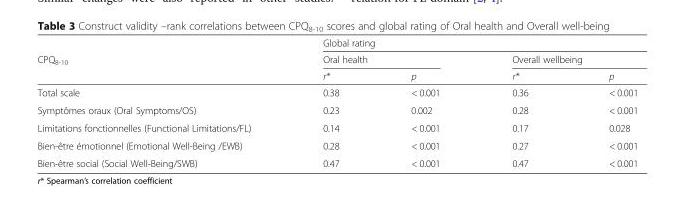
<table><thead><tr><td rowspan="3">CPQ<sub>8-10</sub></td><td colspan="4">Global rating</td></tr><tr><td colspan="2">Oral health</td><td colspan="2">Overall wellbeing</td></tr><tr><td>r*</td><td>p</td><td>r*</td><td>p</td></tr></thead><tbody><tr><td>Total scale</td><td>0.38</td><td>&lt; 0.001</td><td>0.36</td><td>&lt; 0.001</td></tr><tr><td>Symptômes oraux (Oral Symptoms/OS)</td><td>0.23</td><td>0.002</td><td>0.28</td><td>&lt; 0.001</td></tr><tr><td>Limitations fonctionnelles (Functional Limitations/FL)</td><td>0.14</td><td>&lt; 0.001</td><td>0.17</td><td>0.028</td></tr><tr><td>Bien-être émotionnel (Emotional Well-Being /EWB)</td><td>0.28</td><td>&lt; 0.001</td><td>0.27</td><td>&lt; 0.001</td></tr><tr><td>Bien-être social (Social Well-Being/SWB)</td><td>0.47</td><td>&lt; 0.001</td><td>0.47</td><td>&lt; 0.001</td></tr></tbody></table>